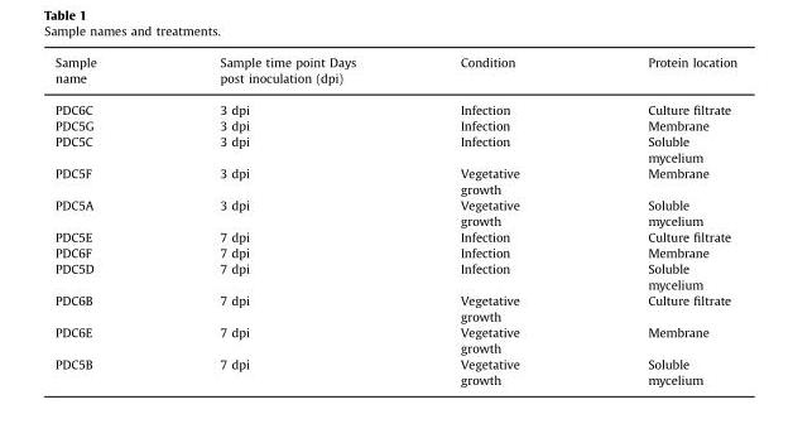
<table><thead><tr><td>Sample name</td><td>Sample time point Days post inoculation (dpi)</td><td>Condition</td><td>Protein location</td></tr></thead><tbody><tr><td>PDC6C</td><td>3 dpi</td><td>Infection</td><td>Culture filtrate</td></tr><tr><td>PDC5G</td><td>3 dpi</td><td>Infection</td><td>Membrane</td></tr><tr><td>PDC5C</td><td>3 dpi</td><td>Infection</td><td>Soluble mycelium</td></tr><tr><td>PDC5F</td><td>3 dpi</td><td>Vegetative growth</td><td>Membrane</td></tr><tr><td>PDC5A</td><td>3 dpi</td><td>Vegetative growth</td><td>Soluble mycelium</td></tr><tr><td>PDC5E</td><td>7 dpi</td><td>Infection</td><td>Culture filtrate</td></tr><tr><td>PDC6F</td><td>7 dpi</td><td>Infection</td><td>Membrane</td></tr><tr><td>PDC5D</td><td>7 dpi</td><td>Infection</td><td>Soluble mycelium</td></tr><tr><td>PDC6B</td><td>7 dpi</td><td>Vegetative growth</td><td>Culture filtrate</td></tr><tr><td>PDC6E</td><td>7 dpi</td><td>Vegetative growth</td><td>Membrane</td></tr><tr><td>PDC5B</td><td>7 dpi</td><td>Vegetative growth</td><td>Soluble mycelium</td></tr></tbody></table>